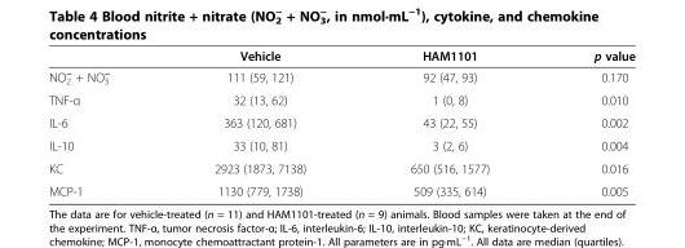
<table><thead><tr><td></td><td>Vehicle</td><td>HAM1101</td><td>p value</td></tr></thead><tbody><tr><td>NO<sub>2</sub> <sup>−</sup> + NO<sub>3</sub> <sup>−</sup></td><td>111 (59, 121)</td><td>92 (47, 93)</td><td>0.170</td></tr><tr><td>TNF-α</td><td>32 (13, 62)</td><td>1 (0, 8)</td><td>0.010</td></tr><tr><td>IL-6</td><td>363 (120, 681)</td><td>43 (22, 55)</td><td>0.002</td></tr><tr><td>IL-10</td><td>33 (10, 81)</td><td>3 (2, 6)</td><td>0.004</td></tr><tr><td>KC</td><td>2923 (1873, 7138)</td><td>650 (516, 1577)</td><td>0.016</td></tr><tr><td>MCP-1</td><td>1130 (779, 1738)</td><td>509 (335, 614)</td><td>0.005</td></tr></tbody></table>